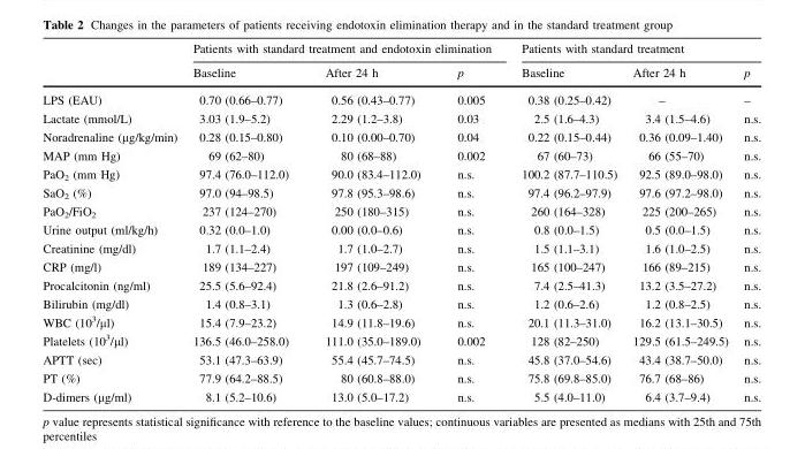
<table><thead><tr><td rowspan="2"></td><td colspan="3">Patients with standard treatment and endotoxin elimination</td><td colspan="3">Patients with standard treatment</td></tr><tr><td>Baseline</td><td>After 24 h</td><td>p</td><td>Baseline</td><td>After 24 h</td><td>p</td></tr></thead><tbody><tr><td>LPS (EAU)</td><td>0.70 (0.66–0.77)</td><td>0.56 (0.43–0.77)</td><td>0.005</td><td>0.38 (0.25–0.42)</td><td>–</td><td>–</td></tr><tr><td>Lactate (mmol/L)</td><td>3.03 (1.9–5.2)</td><td>2.29 (1.2–3.8)</td><td>0.03</td><td>2.5 (1.6–4.3)</td><td>3.4 (1.5–4.6)</td><td>n.s.</td></tr><tr><td>Noradrenaline (µg/kg/min)</td><td>0.28 (0.15–0.80)</td><td>0.10 (0.00–0.70)</td><td>0.04</td><td>0.22 (0.15–0.44)</td><td>0.36 (0.09–1.40)</td><td>n.s.</td></tr><tr><td>MAP (mm Hg)</td><td>69 (62–80)</td><td>80 (68–88)</td><td>0.002</td><td>67 (60–73)</td><td>66 (55–70)</td><td>n.s.</td></tr><tr><td>PaO<sub>2</sub> (mm Hg)</td><td>97.4 (76.0–112.0)</td><td>90.0 (83.4–112.0)</td><td>n.s.</td><td>100.2 (87.7–110.5)</td><td>92.5 (89.0–98.0)</td><td>n.s.</td></tr><tr><td>SaO<sub>2</sub> (%)</td><td>97.0 (94–98.5)</td><td>97.8 (95.3–98.6)</td><td>n.s.</td><td>97.4 (96.2–97.9)</td><td>97.6 (97.2–98.0)</td><td>n.s.</td></tr><tr><td>PaO<sub>2</sub>/FiO<sub>2</sub></td><td>237 (124–270)</td><td>250 (180–315)</td><td>n.s.</td><td>260 (164–328)</td><td>225 (200–265)</td><td>n.s.</td></tr><tr><td>Urine output (ml/kg/h)</td><td>0.32 (0.0–1.0)</td><td>0.00 (0.0–0.6)</td><td>n.s.</td><td>0.8 (0.0–1.5)</td><td>0.5 (0.0–1.5)</td><td>n.s.</td></tr><tr><td>Creatinine (mg/dl)</td><td>1.7 (1.1–2.4)</td><td>1.7 (1.0–2.7)</td><td>n.s.</td><td>1.5 (1.1–3.1)</td><td>1.6 (1.0–2.5)</td><td>n.s.</td></tr><tr><td>CRP (mg/l)</td><td>189 (134–227)</td><td>197 (109–249)</td><td>n.s.</td><td>165 (100–247)</td><td>166 (89–215)</td><td>n.s.</td></tr><tr><td>Procalcitonin (ng/ml)</td><td>25.5 (5.6–92.4)</td><td>21.8 (2.6–91.2)</td><td>n.s.</td><td>7.4 (2.5–41.3)</td><td>13.2 (3.5–27.2)</td><td>n.s.</td></tr><tr><td>Bilirubin (mg/dl)</td><td>1.4 (0.8–3.1)</td><td>1.3 (0.6–2.8)</td><td>n.s.</td><td>1.2 (0.6–2.6)</td><td>1.2 (0.8–2.5)</td><td>n.s.</td></tr><tr><td>WBC (10<sup>3</sup>/µl)</td><td>15.4 (7.9–23.2)</td><td>14.9 (11.8–19.6)</td><td>n.s.</td><td>20.1 (11.3–31.0)</td><td>16.2 (13.1–30.5)</td><td>n.s.</td></tr><tr><td>Platelets (10<sup>3</sup>/µl)</td><td>136.5 (46.0–258.0)</td><td>111.0 (35.0–189.0)</td><td>0.002</td><td>128 (82–250)</td><td>129.5 (61.5–249.5)</td><td>n.s.</td></tr><tr><td>APTT (sec)</td><td>53.1 (47.3–63.9)</td><td>55.4 (45.7–74.5)</td><td>n.s.</td><td>45.8 (37.0–54.6)</td><td>43.4 (38.7–50.0)</td><td>n.s.</td></tr><tr><td>PT (%)</td><td>77.9 (64.2–88.5)</td><td>80 (60.8–88.0)</td><td>n.s.</td><td>75.8 (69.8–85.0)</td><td>76.7 (68–86)</td><td>n.s.</td></tr><tr><td>D-dimers (µg/ml)</td><td>8.1 (5.2–10.6)</td><td>13.0 (5.0–17.2)</td><td>n.s.</td><td>5.5 (4.0–11.0)</td><td>6.4 (3.7–9.4)</td><td>n.s.</td></tr></tbody></table>